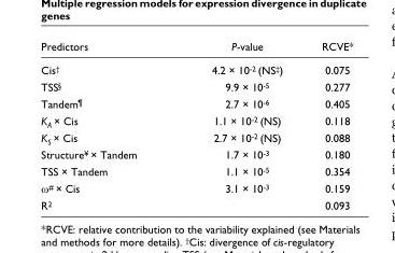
<table><thead><tr><td>Predictors</td><td>P-value</td><td>RCVE*</td></tr></thead><tbody><tr><td>Cis<sup>†</sup></td><td>4.2 × 10<sup>-2</sup> (NS<sup>‡</sup>)</td><td>0.075</td></tr><tr><td>TSS<sup>§</sup></td><td>9.9 × 10<sup>-5</sup></td><td>0.277</td></tr><tr><td>Tandem<sup>¶</sup></td><td>2.7 × 10<sup>-6</sup></td><td>0.405</td></tr><tr><td>K<sub>A</sub> × Cis</td><td>1.1 × 10<sup>-2</sup> (NS)</td><td>0.118</td></tr><tr><td>K<sub>S</sub> × Cis</td><td>2.7 × 10<sup>-2</sup> (NS)</td><td>0.088</td></tr><tr><td>Structure<sup>¥</sup> × Tandem</td><td>1.7 × 10<sup>-3</sup></td><td>0.180</td></tr><tr><td>TSS × Tandem</td><td>1.1 × 10<sup>-5</sup></td><td>0.354</td></tr><tr><td>ω<sup>#</sup> × Cis</td><td>3.1 × 10<sup>-3</sup></td><td>0.159</td></tr><tr><td>R<sup>2</sup></td><td></td><td>0.093</td></tr></tbody></table>